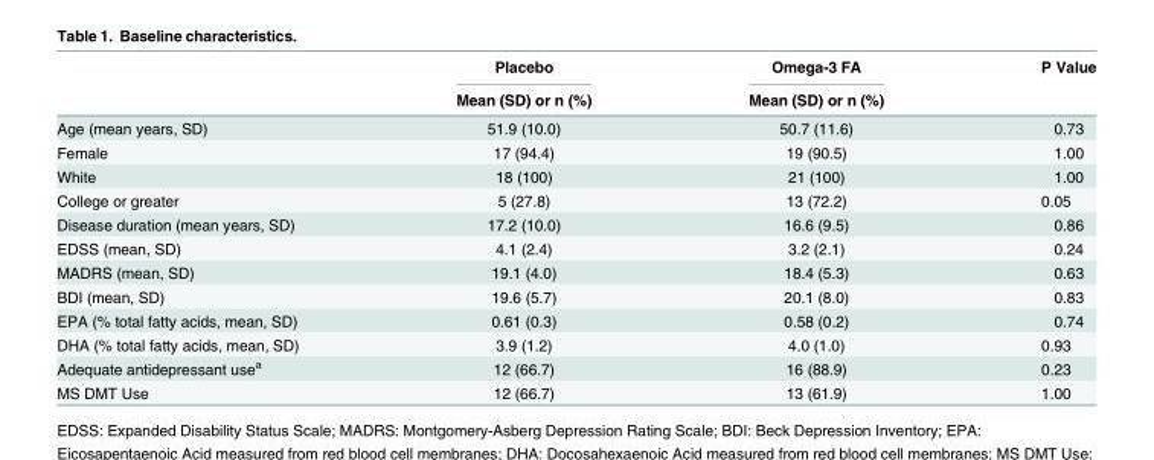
<table><thead><tr><td rowspan="2"></td><td rowspan="2">Placebo Mean (SD) or n (%)</td><td rowspan="2">Omega-3 FA Mean (SD) or n (%)</td><td rowspan="2">P Value</td></tr><tr></tr></thead><tbody><tr><td>Age (mean years, SD)</td><td>51.9 (10.0)</td><td>50.7 (11.6)</td><td>0.73</td></tr><tr><td>Female</td><td>17 (94.4)</td><td>19 (90.5)</td><td>1.00</td></tr><tr><td>White</td><td>18 (100)</td><td>21 (100)</td><td>1.00</td></tr><tr><td>College or greater</td><td>5 (27.8)</td><td>13 (72.2)</td><td>0.05</td></tr><tr><td>Disease duration (mean years, SD)</td><td>17.2 (10.0)</td><td>16.6 (9.5)</td><td>0.86</td></tr><tr><td>EDSS (mean, SD)</td><td>4.1 (2.4)</td><td>3.2 (2.1)</td><td>0.24</td></tr><tr><td>MADRS (mean, SD)</td><td>19.1 (4.0)</td><td>18.4 (5.3)</td><td>0.63</td></tr><tr><td>BDI (mean, SD)</td><td>19.6 (5.7)</td><td>20.1 (8.0)</td><td>0.83</td></tr><tr><td>EPA (% total fatty acids, mean, SD)</td><td>0.61 (0.3)</td><td>0.58 (0.2)</td><td>0.74</td></tr><tr><td>DHA (% total fatty acids, mean, SD)</td><td>3.9 (1.2)</td><td>4.0 (1.0)</td><td>0.93</td></tr><tr><td>Adequate antidepressant use<sup>a</sup></td><td>12 (66.7)</td><td>16 (88.9)</td><td>0.23</td></tr><tr><td>MS DMT Use</td><td>12 (66.7)</td><td>13 (61.9)</td><td>1.00</td></tr></tbody></table>